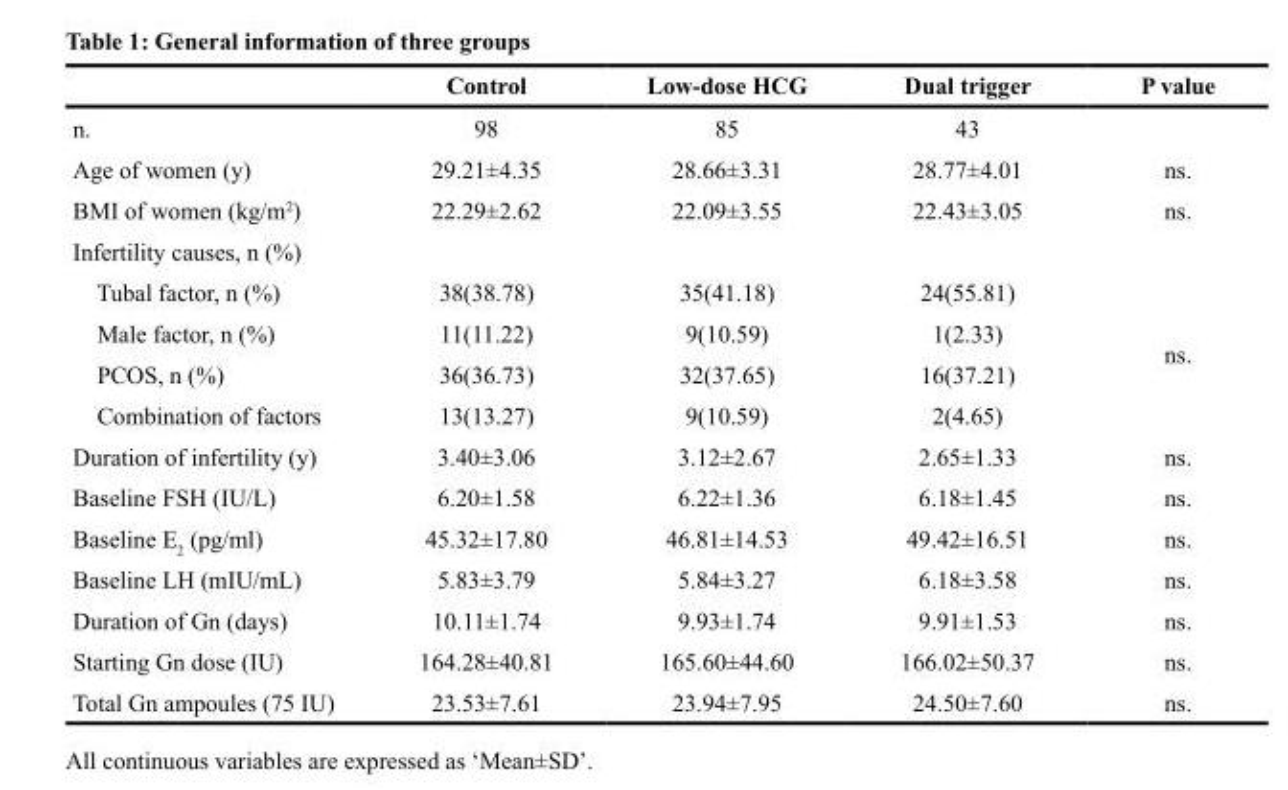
<table><thead><tr><td></td><td>Control</td><td>Low-dose HCG</td><td>Dual trigger</td><td>P value</td></tr></thead><tbody><tr><td>n.</td><td>98</td><td>85</td><td>43</td><td></td></tr><tr><td>Age of women (y)</td><td>29.21±4.35</td><td>28.66±3.31</td><td>28.77±4.01</td><td>ns.</td></tr><tr><td>BMI of women (kg/m<sup>2</sup>)</td><td>22.29±2.62</td><td>22.09±3.55</td><td>22.43±3.05</td><td>ns.</td></tr><tr><td colspan="5">Infertility causes, n (%)</td></tr><tr><td>Tubal factor, n (%)</td><td>38(38.78)</td><td>35(41.18)</td><td>24(55.81)</td><td rowspan="4">ns.</td></tr><tr><td>Male factor, n (%)</td><td>11(11.22)</td><td>9(10.59)</td><td>1(2.33)</td></tr><tr><td>PCOS, n (%)</td><td>36(36.73)</td><td>32(37.65)</td><td>16(37.21)</td></tr><tr><td>Combination of factors</td><td>13(13.27)</td><td>9(10.59)</td><td>2(4.65)</td></tr><tr><td>Duration of infertility (y)</td><td>3.40±3.06</td><td>3.12±2.67</td><td>2.65±1.33</td><td>ns.</td></tr><tr><td>Baseline FSH (IU/L)</td><td>6.20±1.58</td><td>6.22±1.36</td><td>6.18±1.45</td><td>ns.</td></tr><tr><td>Baseline E<sub>2</sub> (pg/ml)</td><td>45.32±17.80</td><td>46.81±14.53</td><td>49.42±16.51</td><td>ns.</td></tr><tr><td>Baseline LH (mIU/mL)</td><td>5.83±3.79</td><td>5.84±3.27</td><td>6.18±3.58</td><td>ns.</td></tr><tr><td>Duration of Gn (days)</td><td>10.11±1.74</td><td>9.93±1.74</td><td>9.91±1.53</td><td>ns.</td></tr><tr><td>Starting Gn dose (IU)</td><td>164.28±40.81</td><td>165.60±44.60</td><td>166.02±50.37</td><td>ns.</td></tr><tr><td>Total Gn ampoules (75 IU)</td><td>23.53±7.61</td><td>23.94±7.95</td><td>24.50±7.60</td><td>ns.</td></tr></tbody></table>